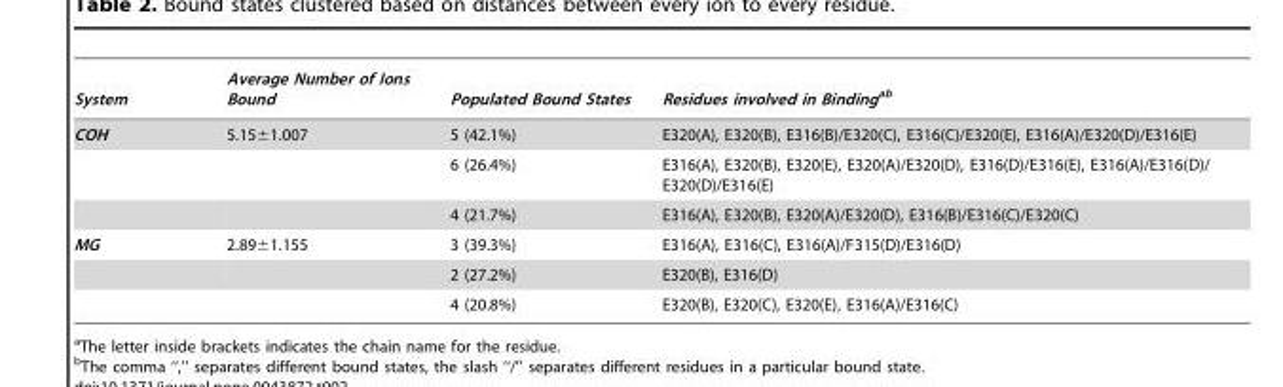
<table><thead><tr><td>System</td><td>Average Number of Ions Bound</td><td>Populated Bound States</td><td>Residues involved in Bindingab</td></tr></thead><tbody><tr><td rowspan="3">COH</td><td>5.15±1.007</td><td>5 (42.1%)</td><td>E320(A), E320(B), E316(B)/E320(C), E316(C)/E320(E), E316(A)/E320(D)/E316(E)</td></tr><tr><td></td><td>6 (26.4%)</td><td>E316(A), E320(B), E320(E), E320(A)/E320(D), E316(D)/E316(E), E316(A)/E316(D)/ E320(D)/E316(E)</td></tr><tr><td></td><td>4 (21.7%)</td><td>E316(A), E320(B), E320(A)/E320(D), E316(B)/E316(C)/E320(C)</td></tr><tr><td rowspan="3">MG</td><td>2.89±1.155</td><td>3 (39.3%)</td><td>E316(A), E316(C), E316(A)/F315(D)/E316(D)</td></tr><tr><td></td><td>2 (27.2%)</td><td>E320(B), E316(D)</td></tr><tr><td></td><td>4 (20.8%)</td><td>E320(B), E320(C), E320(E), E316(A)/E316(C)</td></tr></tbody></table>